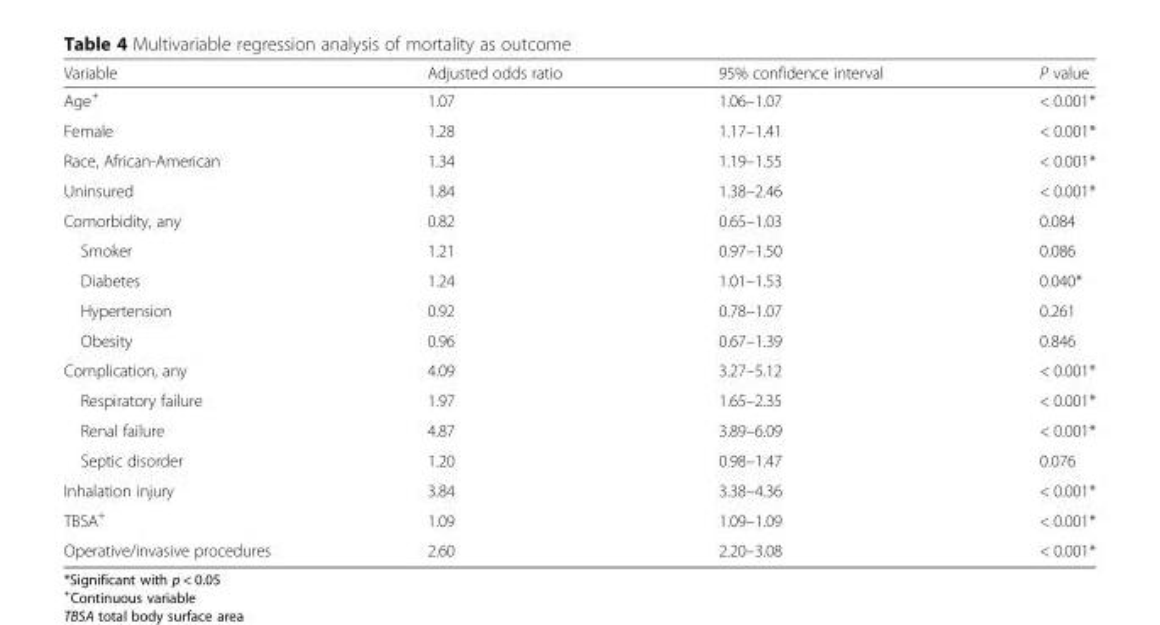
<table><thead><tr><td>Variable</td><td>Adjusted odds ratio</td><td>95% confidence interval</td><td>P value</td></tr></thead><tbody><tr><td>Age<sup>+</sup></td><td>1.07</td><td>1.06–1.07</td><td>&lt; 0.001*</td></tr><tr><td>Female</td><td>1.28</td><td>1.17–1.41</td><td>&lt; 0.001*</td></tr><tr><td>Race, African-American</td><td>1.34</td><td>1.19–1.55</td><td>&lt; 0.001*</td></tr><tr><td>Uninsured</td><td>1.84</td><td>1.38–2.46</td><td>&lt; 0.001*</td></tr><tr><td>Comorbidity, any</td><td>0.82</td><td>0.65–1.03</td><td>0.084</td></tr><tr><td>Smoker</td><td>1.21</td><td>0.97–1.50</td><td>0.086</td></tr><tr><td>Diabetes</td><td>1.24</td><td>1.01–1.53</td><td>0.040*</td></tr><tr><td>Hypertension</td><td>0.92</td><td>0.78–1.07</td><td>0.261</td></tr><tr><td>Obesity</td><td>0.96</td><td>0.67–1.39</td><td>0.846</td></tr><tr><td>Complication, any</td><td>4.09</td><td>3.27–5.12</td><td>&lt; 0.001*</td></tr><tr><td>Respiratory failure</td><td>1.97</td><td>1.65–2.35</td><td>&lt; 0.001*</td></tr><tr><td>Renal failure</td><td>4.87</td><td>3.89–6.09</td><td>&lt; 0.001*</td></tr><tr><td>Septic disorder</td><td>1.20</td><td>0.98–1.47</td><td>0.076</td></tr><tr><td>Inhalation injury</td><td>3.84</td><td>3.38–4.36</td><td>&lt; 0.001*</td></tr><tr><td>TBSA<sup>+</sup></td><td>1.09</td><td>1.09–1.09</td><td>&lt; 0.001*</td></tr><tr><td>Operative/invasive procedures</td><td>2.60</td><td>2.20–3.08</td><td>&lt; 0.001*</td></tr></tbody></table>